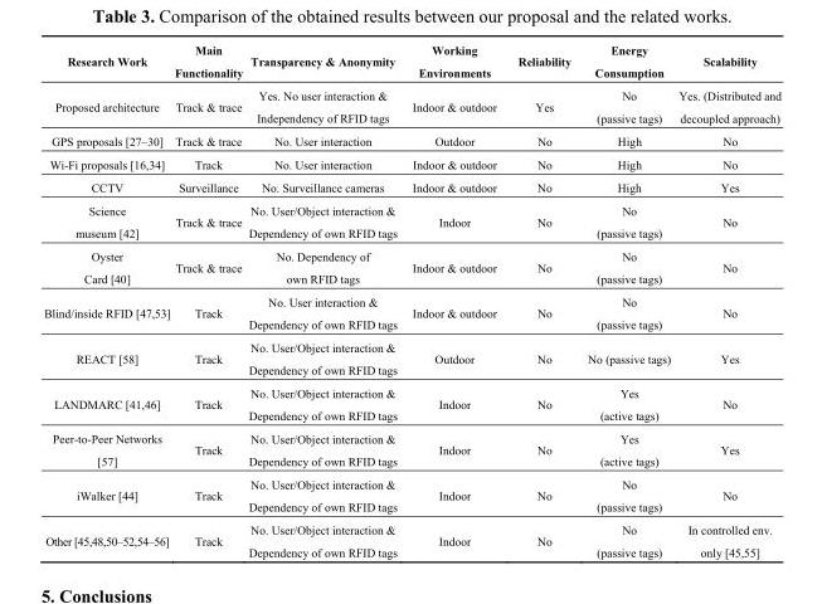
<table><thead><tr><td>Research Work</td><td>Main Functionality</td><td>Transparency &amp; Anonymity</td><td>Working Environments</td><td>Reliability</td><td>Energy Consumption</td><td>Scalability</td></tr></thead><tbody><tr><td>Proposed architecture</td><td>Track &amp; trace</td><td>Yes. No user interaction &amp; Independency of RFID tags</td><td>Indoor &amp; outdoor</td><td>Yes</td><td>No (passive tags)</td><td>Yes. (Distributed and decoupled approach)</td></tr><tr><td>GPS proposals [27–30]</td><td>Track &amp; trace</td><td>No. User interaction</td><td>Outdoor</td><td>No</td><td>High</td><td>No</td></tr><tr><td>Wi-Fi proposals [16,34]</td><td>Track</td><td>No. User interaction</td><td>Indoor &amp; outdoor</td><td>No</td><td>High</td><td>No</td></tr><tr><td>CCTV</td><td>Surveillance</td><td>No. Surveillance cameras</td><td>Indoor &amp; outdoor</td><td>No</td><td>High</td><td>Yes</td></tr><tr><td>Science museum [42]</td><td>Track &amp; trace</td><td>No. User/Object interaction &amp; Dependency of own RFID tags</td><td>Indoor</td><td>No</td><td>No (passive tags)</td><td>No</td></tr><tr><td>Oyster Card [40]</td><td>Track &amp; trace</td><td>No. Dependency of own RFID tags</td><td>Indoor &amp; outdoor</td><td>No</td><td>No (passive tags)</td><td>No</td></tr><tr><td>Blind/inside RFID [47,53]</td><td>Track</td><td>No. User interaction &amp; Dependency of own RFID tags</td><td>Indoor &amp; outdoor</td><td>No</td><td>No (passive tags)</td><td>No</td></tr><tr><td>REACT [58]</td><td>Track</td><td>No. User/Object interaction &amp; Dependency of own RFID tags</td><td>Outdoor</td><td>No</td><td>No (passive tags)</td><td>Yes</td></tr><tr><td>LANDMARC [41,46]</td><td>Track</td><td>No. User/Object interaction &amp; Dependency of own RFID tags</td><td>Indoor</td><td>No</td><td>Yes (active tags)</td><td>No</td></tr><tr><td>Peer-to-Peer Networks [57]</td><td>Track</td><td>No. User/Object interaction &amp; Dependency of own RFID tags</td><td>Indoor</td><td>No</td><td>Yes (active tags)</td><td>Yes</td></tr><tr><td>iWalker [44]</td><td>Track</td><td>No. User/Object interaction &amp; Dependency of own RFID tags</td><td>Indoor</td><td>No</td><td>No (passive tags)</td><td>No</td></tr><tr><td>Other [45,48,50–52,54–56]</td><td>Track</td><td>No. User/Object interaction &amp; Dependency of own RFID tags</td><td>Indoor</td><td>No</td><td>No (passive tags)</td><td>In controlled env. only [45,55]</td></tr></tbody></table>